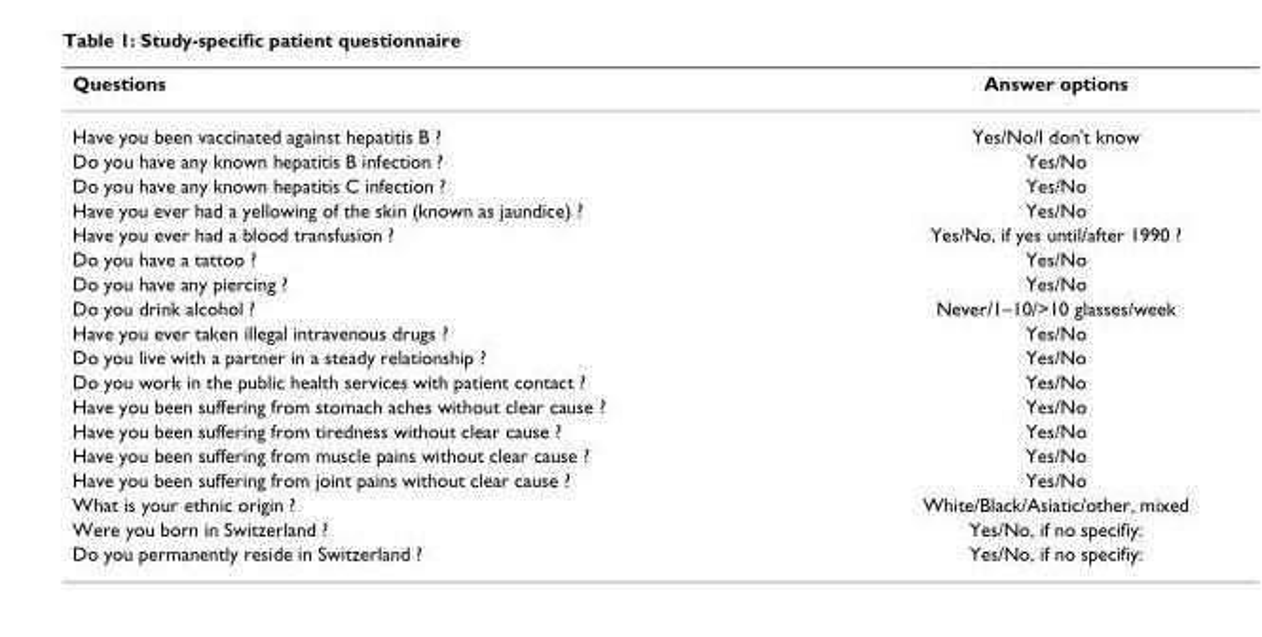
<table><thead><tr><td>Questions</td><td>Answer options</td></tr></thead><tbody><tr><td>Have you been vaccinated against hepatitis B ?</td><td>Yes/No/I don&#x27;t know</td></tr><tr><td>Do you have any known hepatitis B infection ?</td><td>Yes/No</td></tr><tr><td>Do you have any known hepatitis C infection ?</td><td>Yes/No</td></tr><tr><td>Have you ever had a yellowing of the skin (known as jaundice) ?</td><td>Yes/No</td></tr><tr><td>Have you ever had a blood transfusion ?</td><td>Yes/No, if yes until/after 1990 ?</td></tr><tr><td>Do you have a tattoo ?</td><td>Yes/No</td></tr><tr><td>Do you have any piercing ?</td><td>Yes/No</td></tr><tr><td>Do you drink alcohol ?</td><td>Never/1–10/&gt;10 glasses/week</td></tr><tr><td>Have you ever taken illegal intravenous drugs ?</td><td>Yes/No</td></tr><tr><td>Do you live with a partner in a steady relationship ?</td><td>Yes/No</td></tr><tr><td>Do you work in the public health services with patient contact ?</td><td>Yes/No</td></tr><tr><td>Have you been suffering from stomach aches without clear cause ?</td><td>Yes/No</td></tr><tr><td>Have you been suffering from tiredness without clear cause ?</td><td>Yes/No</td></tr><tr><td>Have you been suffering from muscle pains without clear cause ?</td><td>Yes/No</td></tr><tr><td>Have you been suffering from joint pains without clear cause ?</td><td>Yes/No</td></tr><tr><td>What is your ethnic origin ?</td><td>White/Black/Asiatic/other, mixed</td></tr><tr><td>Were you born in Switzerland ?</td><td>Yes/No, if no specifiy:</td></tr><tr><td>Do you permanently reside in Switzerland ?</td><td>Yes/No, if no specifiy:</td></tr></tbody></table>